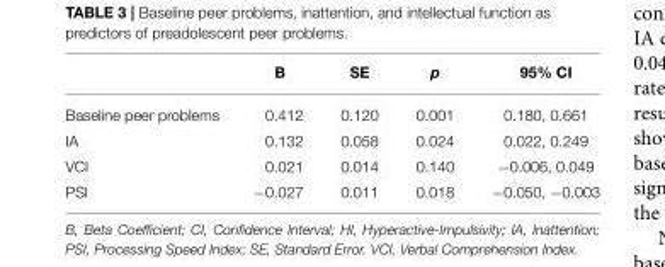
<table><thead><tr><td></td><td>B</td><td>SE</td><td>p</td><td>95% CI</td></tr></thead><tbody><tr><td>Baseline peer problems</td><td>0.412</td><td>0.120</td><td>0.001</td><td>0.180, 0.661</td></tr><tr><td>IA</td><td>0.132</td><td>0.058</td><td>0.024</td><td>0.022, 0.249</td></tr><tr><td>VCI</td><td>0.021</td><td>0.014</td><td>0.140</td><td>−0.006, 0.049</td></tr><tr><td>PSI</td><td>−0.027</td><td>0.011</td><td>0.018</td><td>−0.050, −0.003</td></tr></tbody></table>